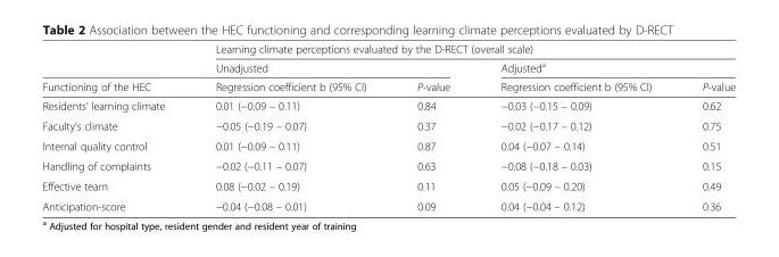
<table><thead><tr><td rowspan="3">Functioning of the HEC</td><td colspan="4">Learning climate perceptions evaluated by the D-RECT (overall scale)</td></tr><tr><td colspan="2">Unadjusted</td><td colspan="2">Adjusted<sup>a</sup></td></tr><tr><td>Regression coefficient b (95% CI)</td><td>P-value</td><td>Regression coefficient b (95% CI)</td><td>P-value</td></tr></thead><tbody><tr><td>Residents’ learning climate</td><td>0.01 (−0.09 – 0.11)</td><td>0.84</td><td>−0.03 (−0.15 – 0.09)</td><td>0.62</td></tr><tr><td>Faculty’s climate</td><td>−0.05 (−0.19 – 0.07)</td><td>0.37</td><td>−0.02 (−0.17 – 0.12)</td><td>0.75</td></tr><tr><td>Internal quality control</td><td>0.01 (−0.09 – 0.11)</td><td>0.87</td><td>0.04 (−0.07 – 0.14)</td><td>0.51</td></tr><tr><td>Handling of complaints</td><td>−0.02 (−0.11 – 0.07)</td><td>0.63</td><td>−0.08 (−0.18 – 0.03)</td><td>0.15</td></tr><tr><td>Effective team</td><td>0.08 (−0.02 – 0.19)</td><td>0.11</td><td>0.05 (−0.09 – 0.20)</td><td>0.49</td></tr><tr><td>Anticipation-score</td><td>−0.04 (−0.08 – 0.01)</td><td>0.09</td><td>0.04 (−0.04 – 0.12)</td><td>0.36</td></tr></tbody></table>